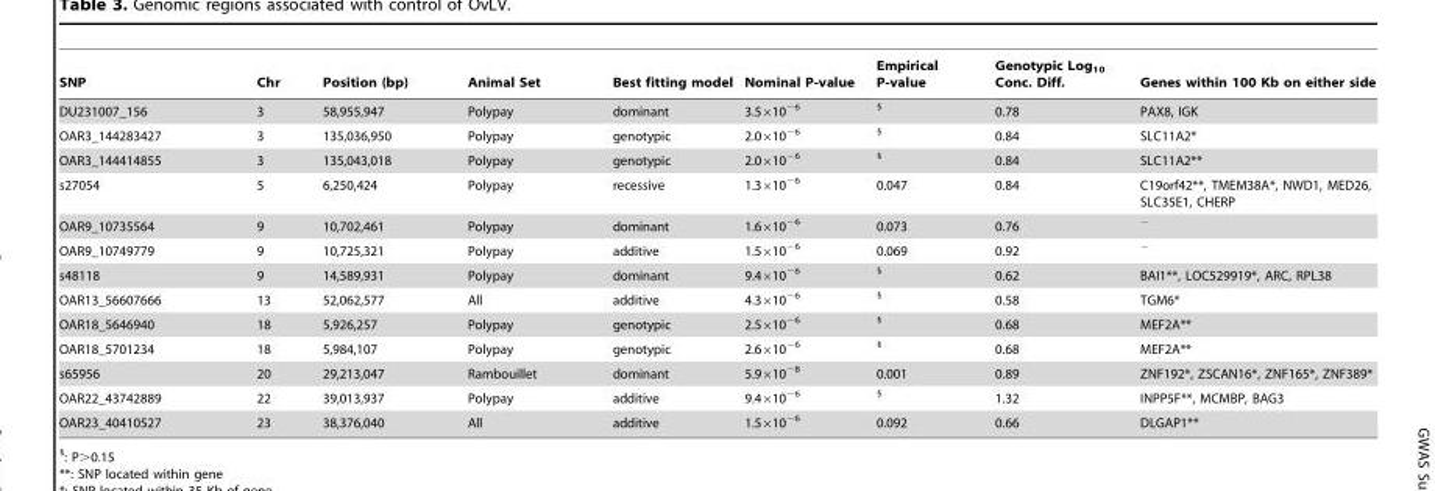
<table><thead><tr><td>SNP</td><td>Chr</td><td>Position (bp)</td><td>Animal Set</td><td>Best fitting model</td><td>Nominal P-value</td><td>Empirical P-value</td><td>Genotypic Log<sub>10</sub> Conc. Diff.</td><td>Genes within 100 Kb on either side</td></tr></thead><tbody><tr><td>DU231007_156</td><td>3</td><td>58,955,947</td><td>Polypay</td><td>dominant</td><td>3.5×10<sup>−6</sup></td><td>§</td><td>0.78</td><td>PAX8, IGK</td></tr><tr><td>OAR3_144283427</td><td>3</td><td>135,036,950</td><td>Polypay</td><td>genotypic</td><td>2.0×10<sup>−6</sup></td><td>§</td><td>0.84</td><td>SLC11A2*</td></tr><tr><td>OAR3_144414855</td><td>3</td><td>135,043,018</td><td>Polypay</td><td>genotypic</td><td>2.0×10<sup>−6</sup></td><td>§</td><td>0.84</td><td>SLC11A2**</td></tr><tr><td>s27054</td><td>5</td><td>6,250,424</td><td>Polypay</td><td>recessive</td><td>1.3×10<sup>−6</sup></td><td>0.047</td><td>0.84</td><td>C19orf42**, TMEM38A*, NWD1, MED26, SLC35E1, CHERP</td></tr><tr><td>OAR9_10735564</td><td>9</td><td>10,702,461</td><td>Polypay</td><td>dominant</td><td>1.6×10<sup>−6</sup></td><td>0.073</td><td>0.76</td><td><sup>−</sup></td></tr><tr><td>OAR9_10749779</td><td>9</td><td>10,725,321</td><td>Polypay</td><td>additive</td><td>1.5×10<sup>−6</sup></td><td>0.069</td><td>0.92</td><td><sup>−</sup></td></tr><tr><td>s48118</td><td>9</td><td>14,589,931</td><td>Polypay</td><td>dominant</td><td>9.4×10<sup>−6</sup></td><td>§</td><td>0.62</td><td>BAI1**, LOC529919*, ARC, RPL38</td></tr><tr><td>OAR13_56607666</td><td>13</td><td>52,062,577</td><td>All</td><td>additive</td><td>4.3×10<sup>−6</sup></td><td>§</td><td>0.58</td><td>TGM6*</td></tr><tr><td>OAR18_5646940</td><td>18</td><td>5,926,257</td><td>Polypay</td><td>genotypic</td><td>2.5×10<sup>−6</sup></td><td>§</td><td>0.68</td><td>MEF2A**</td></tr><tr><td>OAR18_5701234</td><td>18</td><td>5,984,107</td><td>Polypay</td><td>genotypic</td><td>2.6×10<sup>−6</sup></td><td>§</td><td>0.68</td><td>MEF2A**</td></tr><tr><td>s65956</td><td>20</td><td>29,213,047</td><td>Rambouillet</td><td>dominant</td><td>5.9×10<sup>−8</sup></td><td>0.001</td><td>0.89</td><td>ZNF192*, ZSCAN16*, ZNF165*, ZNF389*</td></tr><tr><td>OAR22_43742889</td><td>22</td><td>39,013,937</td><td>Polypay</td><td>additive</td><td>9.4×10<sup>−6</sup></td><td>§</td><td>1.32</td><td>INPP5F**, MCMBP, BAG3</td></tr><tr><td>OAR23_40410527</td><td>23</td><td>38,376,040</td><td>All</td><td>additive</td><td>1.5×10<sup>−6</sup></td><td>0.092</td><td>0.66</td><td>DLGAP1**</td></tr></tbody></table>